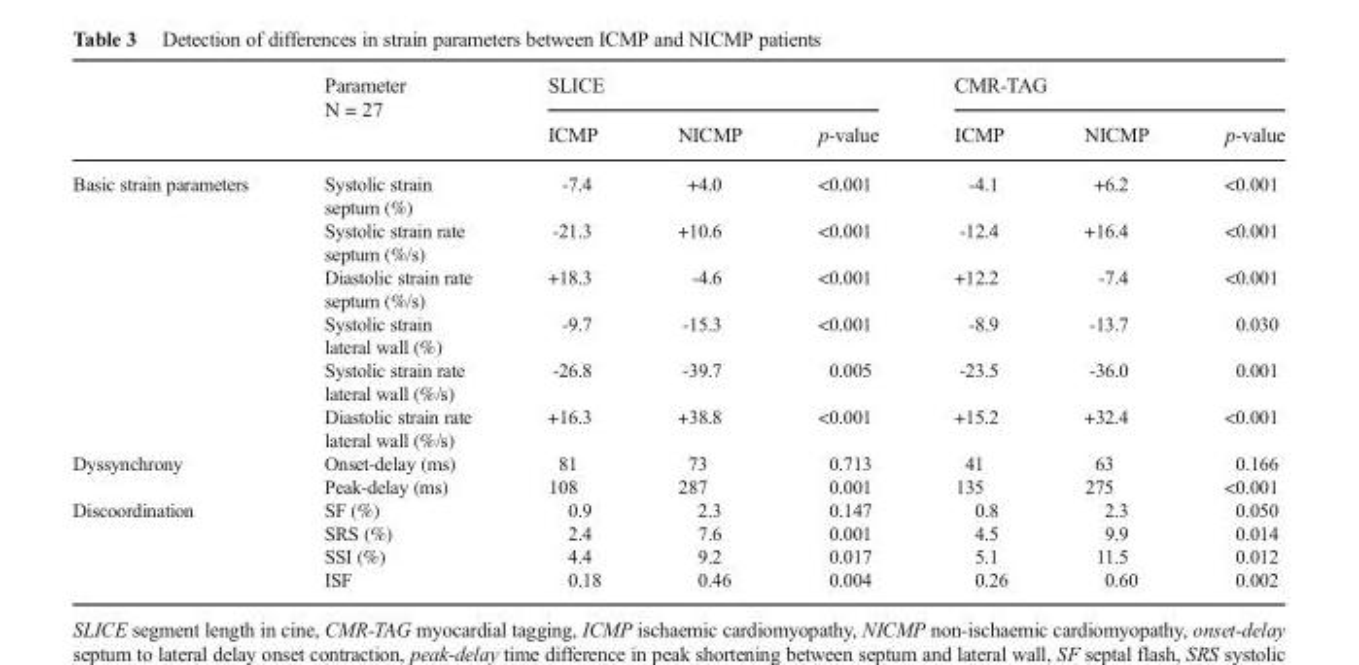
<table><thead><tr><td rowspan="2"></td><td rowspan="2">Parameter N = 27</td><td colspan="3">SLICE</td><td colspan="3">CMR-TAG</td></tr><tr><td>ICMP</td><td>NICMP</td><td>p-value</td><td>ICMP</td><td>NICMP</td><td>p-value</td></tr></thead><tbody><tr><td rowspan="6">Basic strain parameters</td><td>Systolic strain septum (%)</td><td>-7.4</td><td>+4.0</td><td>&lt;0.001</td><td>-4.1</td><td>+6.2</td><td>&lt;0.001</td></tr><tr><td>Systolic strain rate septum (%/s)</td><td>-21.3</td><td>+10.6</td><td>&lt;0.001</td><td>-12.4</td><td>+16.4</td><td>&lt;0.001</td></tr><tr><td>Diastolic strain rate septum (%/s)</td><td>+18.3</td><td>-4.6</td><td>&lt;0.001</td><td>+12.2</td><td>-7.4</td><td>&lt;0.001</td></tr><tr><td>Systolic strain lateral wall (%)</td><td>-9.7</td><td>-15.3</td><td>&lt;0.001</td><td>-8.9</td><td>-13.7</td><td>0.030</td></tr><tr><td>Systolic strain rate lateral wall (%/s)</td><td>-26.8</td><td>-39.7</td><td>0.005</td><td>-23.5</td><td>-36.0</td><td>0.001</td></tr><tr><td>Diastolic strain rate lateral wall (%/s)</td><td>+16.3</td><td>+38.8</td><td>&lt;0.001</td><td>+15.2</td><td>+32.4</td><td>&lt;0.001</td></tr><tr><td rowspan="2">Dyssynchrony</td><td>Onset-delay (ms)</td><td>81</td><td>73</td><td>0.713</td><td>41</td><td>63</td><td>0.166</td></tr><tr><td>Peak-delay (ms)</td><td>108</td><td>287</td><td>0.001</td><td>135</td><td>275</td><td>&lt;0.001</td></tr><tr><td rowspan="4">Discoordination</td><td>SF (%)</td><td>0.9</td><td>2.3</td><td>0.147</td><td>0.8</td><td>2.3</td><td>0.050</td></tr><tr><td>SRS (%)</td><td>2.4</td><td>7.6</td><td>0.001</td><td>4.5</td><td>9.9</td><td>0.014</td></tr><tr><td>SSI (%)</td><td>4.4</td><td>9.2</td><td>0.017</td><td>5.1</td><td>11.5</td><td>0.012</td></tr><tr><td>ISF</td><td>0.18</td><td>0.46</td><td>0.004</td><td>0.26</td><td>0.60</td><td>0.002</td></tr></tbody></table>